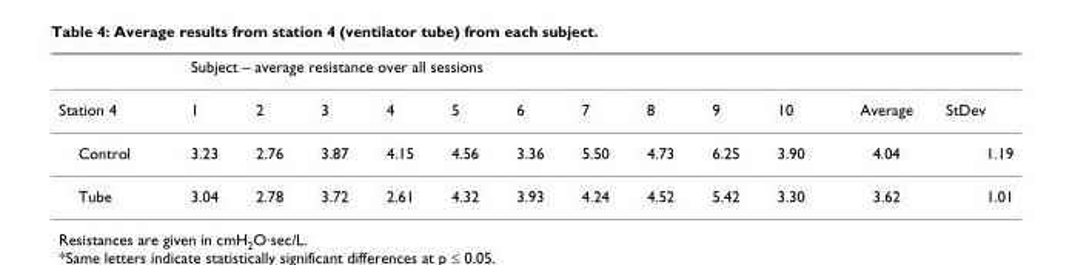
<table><thead><tr><td rowspan="2">Station 4</td><td colspan="10">Subject – average resistance over all sessions</td><td rowspan="2">Average</td><td rowspan="2">StDev</td></tr><tr><td>1</td><td>2</td><td>3</td><td>4</td><td>5</td><td>6</td><td>7</td><td>8</td><td>9</td><td>10</td></tr></thead><tbody><tr><td>Control</td><td>3.23</td><td>2.76</td><td>3.87</td><td>4.15</td><td>4.56</td><td>3.36</td><td>5.50</td><td>4.73</td><td>6.25</td><td>3.90</td><td>4.04</td><td>1.19</td></tr><tr><td>Tube</td><td>3.04</td><td>2.78</td><td>3.72</td><td>2.61</td><td>4.32</td><td>3.93</td><td>4.24</td><td>4.52</td><td>5.42</td><td>3.30</td><td>3.62</td><td>1.01</td></tr></tbody></table>